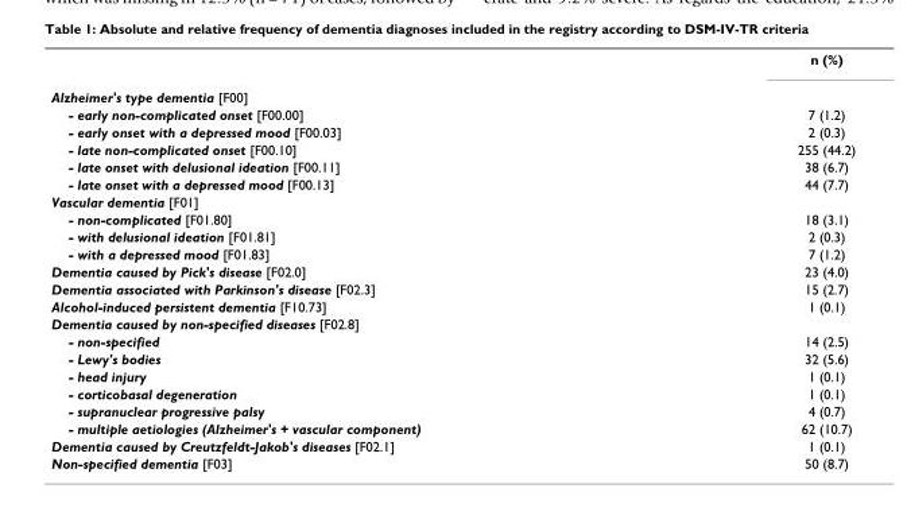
<table><thead><tr><td></td><td>n (%)</td></tr></thead><tbody><tr><td colspan="2">Alzheimer&#x27;s type dementia [F00]</td></tr><tr><td>- early non-complicated onset [F00.00]</td><td>7 (1.2)</td></tr><tr><td>- early onset with a depressed mood [F00.03]</td><td>2 (0.3)</td></tr><tr><td>- late non-complicated onset [F00.10]</td><td>255 (44.2)</td></tr><tr><td>- late onset with delusional ideation [F00.11]</td><td>38 (6.7)</td></tr><tr><td>- late onset with a depressed mood [F00.13]</td><td>44 (7.7)</td></tr><tr><td colspan="2">Vascular dementia [F01]</td></tr><tr><td>- non-complicated [F01.80]</td><td>18 (3.1)</td></tr><tr><td>- with delusional ideation [F01.81]</td><td>2 (0.3)</td></tr><tr><td>- with a depressed mood [F01.83]</td><td>7 (1.2)</td></tr><tr><td>Dementia caused by Pick&#x27;s disease [F02.0]</td><td>23 (4.0)</td></tr><tr><td>Dementia associated with Parkinson&#x27;s disease [F02.3]</td><td>15 (2.7)</td></tr><tr><td>Alcohol-induced persistent dementia [F10.73]</td><td>1 (0.1)</td></tr><tr><td colspan="2">Dementia caused by non-specified diseases [F02.8]</td></tr><tr><td>- non-specified</td><td>14 (2.5)</td></tr><tr><td>- Lewy&#x27;s bodies</td><td>32 (5.6)</td></tr><tr><td>- head injury</td><td>1 (0.1)</td></tr><tr><td>- corticobasal degeneration</td><td>1 (0.1)</td></tr><tr><td>- supranuclear progressive palsy</td><td>4 (0.7)</td></tr><tr><td>- multiple aetiologies (Alzheimer&#x27;s + vascular component)</td><td>62 (10.7)</td></tr><tr><td>Dementia caused by Creutzfeldt-Jakob&#x27;s diseases [F02.1]</td><td>1 (0.1)</td></tr><tr><td>Non-specified dementia [F03]</td><td>50 (8.7)</td></tr></tbody></table>